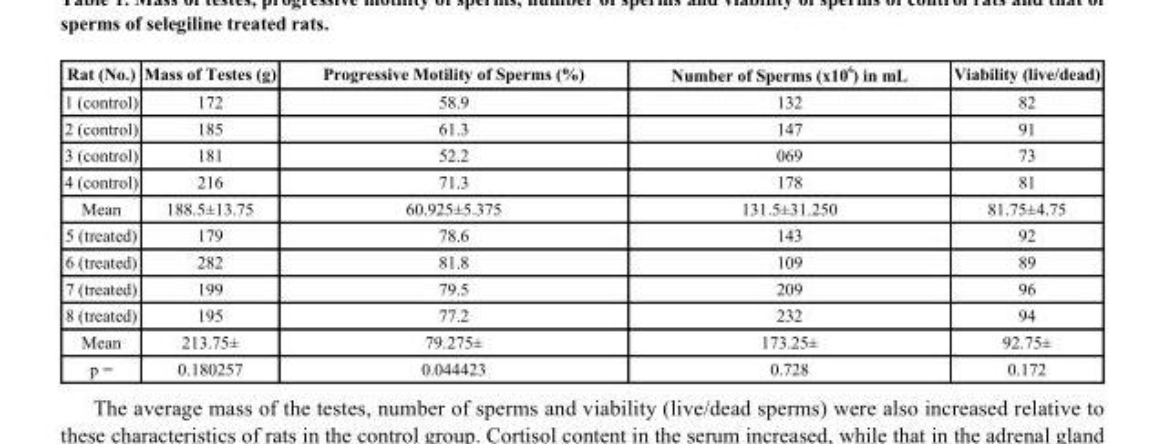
<table><thead><tr><td>Rat (No.)</td><td>Mass of Testes (g)</td><td>Progressive Motility of Sperms (%)</td><td>Number of Sperms (x10 <sup>6</sup>) in mL</td><td>Viability (live/dead)</td></tr></thead><tbody><tr><td>1 (control)</td><td>172</td><td>58.9</td><td>132</td><td>82</td></tr><tr><td>2 (control)</td><td>185</td><td>61.3</td><td>147</td><td>91</td></tr><tr><td>3 (control)</td><td>181</td><td>52.2</td><td>069</td><td>73</td></tr><tr><td>4 (control)</td><td>216</td><td>71.3</td><td>178</td><td>81</td></tr><tr><td>Mean</td><td>188.5±13.75</td><td>60.925±5.375</td><td>131.5±31.250</td><td>81.75±4.75</td></tr><tr><td>5 (treated)</td><td>179</td><td>78.6</td><td>143</td><td>92</td></tr><tr><td>6 (treated)</td><td>282</td><td>81.8</td><td>109</td><td>89</td></tr><tr><td>7 (treated)</td><td>199</td><td>79.5</td><td>209</td><td>96</td></tr><tr><td>8 (treated)</td><td>195</td><td>77.2</td><td>232</td><td>94</td></tr><tr><td>Mean</td><td>213.75±</td><td>79.275±</td><td>173.25±</td><td>92.75±</td></tr><tr><td>p =</td><td>0.180257</td><td>0.044423</td><td>0.728</td><td>0.172</td></tr></tbody></table>